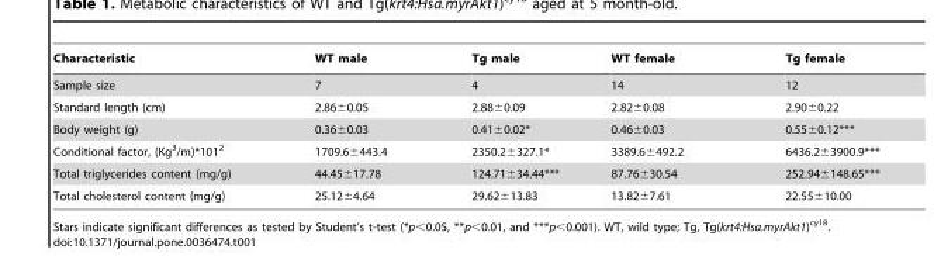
<table><thead><tr><td>Characteristic</td><td>WT male</td><td>Tg male</td><td>WT female</td><td>Tg female</td></tr></thead><tbody><tr><td>Sample size</td><td>7</td><td>4</td><td>14</td><td>12</td></tr><tr><td>Standard length (cm)</td><td>2.86±0.05</td><td>2.88±0.09</td><td>2.82±0.08</td><td>2.90±0.22</td></tr><tr><td>Body weight (g)</td><td>0.36±0.03</td><td>0.41±0.02*</td><td>0.46±0.03</td><td>0.55±0.12***</td></tr><tr><td>Conditional factor, (Kg<sup>3</sup>/m)*101<sup>2</sup></td><td>1709.6±443.4</td><td>2350.2±327.1*</td><td>3389.6±492.2</td><td>6436.2±3900.9***</td></tr><tr><td>Total triglycerides content (mg/g)</td><td>44.45±17.78</td><td>124.71±34.44***</td><td>87.76±30.54</td><td>252.94±148.65***</td></tr><tr><td>Total cholesterol content (mg/g)</td><td>25.12±4.64</td><td>29.62±13.83</td><td>13.82±7.61</td><td>22.55±10.00</td></tr></tbody></table>